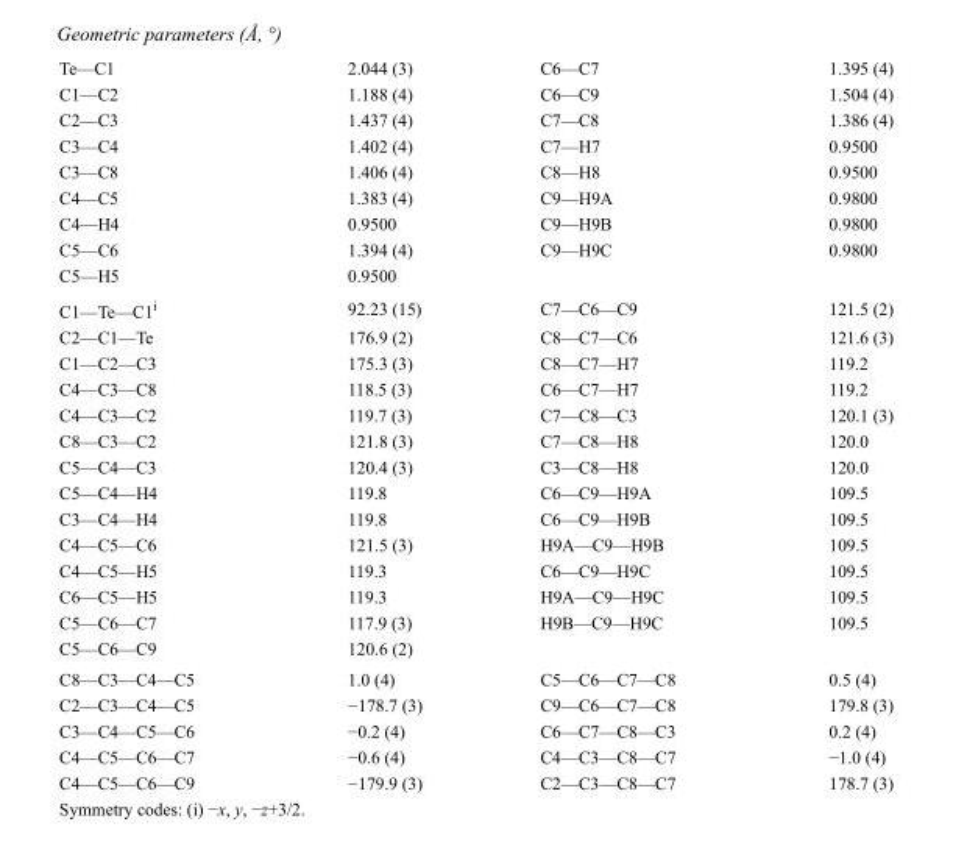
<table><tbody><tr><td>Te—C1</td><td>2.044 (3)</td><td>C6—C7</td><td>1.395 (4)</td></tr><tr><td>C1—C2</td><td>1.188 (4)</td><td>C6—C9</td><td>1.504 (4)</td></tr><tr><td>C2—C3</td><td>1.437 (4)</td><td>C7—C8</td><td>1.386 (4)</td></tr><tr><td>C3—C4</td><td>1.402 (4)</td><td>C7—H7</td><td>0.9500</td></tr><tr><td>C3—C8</td><td>1.406 (4)</td><td>C8—H8</td><td>0.9500</td></tr><tr><td>C4—C5</td><td>1.383 (4)</td><td>C9—H9A</td><td>0.9800</td></tr><tr><td>C4—H4</td><td>0.9500</td><td>C9—H9B</td><td>0.9800</td></tr><tr><td>C5—C6</td><td>1.394 (4)</td><td>C9—H9C</td><td>0.9800</td></tr><tr><td>C5—H5</td><td>0.9500</td><td></td><td></td></tr><tr><td>C1—Te—C1<sup>i</sup></td><td>92.23 (15)</td><td>C7—C6—C9</td><td>121.5 (2)</td></tr><tr><td>C2—C1—Te</td><td>176.9 (2)</td><td>C8—C7—C6</td><td>121.6 (3)</td></tr><tr><td>C1—C2—C3</td><td>175.3 (3)</td><td>C8—C7—H7</td><td>119.2</td></tr><tr><td>C4—C3—C8</td><td>118.5 (3)</td><td>C6—C7—H7</td><td>119.2</td></tr><tr><td>C4—C3—C2</td><td>119.7 (3)</td><td>C7—C8—C3</td><td>120.1 (3)</td></tr><tr><td>C8—C3—C2</td><td>121.8 (3)</td><td>C7—C8—H8</td><td>120.0</td></tr><tr><td>C5—C4—C3</td><td>120.4 (3)</td><td>C3—C8—H8</td><td>120.0</td></tr><tr><td>C5—C4—H4</td><td>119.8</td><td>C6—C9—H9A</td><td>109.5</td></tr><tr><td>C3—C4—H4</td><td>119.8</td><td>C6—C9—H9B</td><td>109.5</td></tr><tr><td>C4—C5—C6</td><td>121.5 (3)</td><td>H9A—C9—H9B</td><td>109.5</td></tr><tr><td>C4—C5—H5</td><td>119.3</td><td>C6—C9—H9C</td><td>109.5</td></tr><tr><td>C6—C5—H5</td><td>119.3</td><td>H9A—C9—H9C</td><td>109.5</td></tr><tr><td>C5—C6—C7</td><td>117.9 (3)</td><td>H9B—C9—H9C</td><td>109.5</td></tr><tr><td>C5—C6—C9</td><td>120.6 (2)</td><td></td><td></td></tr><tr><td>C8—C3—C4—C5</td><td>1.0 (4)</td><td>C5—C6—C7—C8</td><td>0.5 (4)</td></tr><tr><td>C2—C3—C4—C5</td><td>−178.7 (3)</td><td>C9—C6—C7—C8</td><td>179.8 (3)</td></tr><tr><td>C3—C4—C5—C6</td><td>−0.2 (4)</td><td>C6—C7—C8—C3</td><td>0.2 (4)</td></tr><tr><td>C4—C5—C6—C7</td><td>−0.6 (4)</td><td>C4—C3—C8—C7</td><td>−1.0 (4)</td></tr><tr><td>C4—C5—C6—C9</td><td>−179.9 (3)</td><td>C2—C3—C8—C7</td><td>178.7 (3)</td></tr></tbody></table>